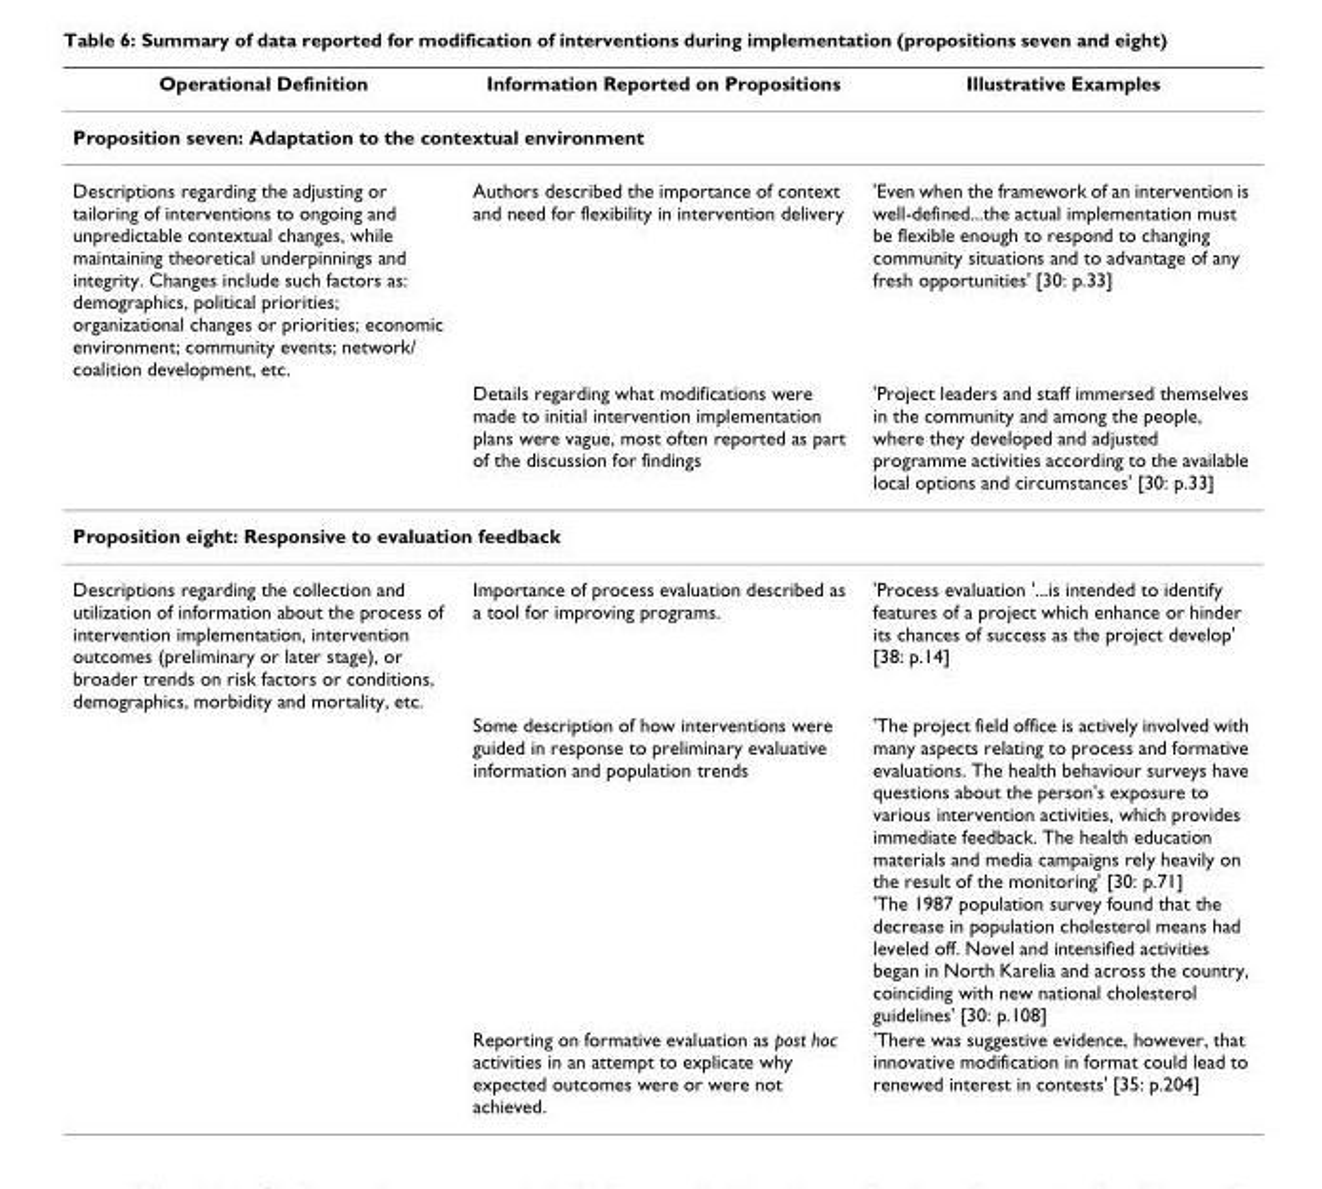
<table><thead><tr><td>Operational Definition</td><td>Information Reported on Propositions</td><td>Illustrative Examples</td></tr></thead><tbody><tr><td colspan="3">Proposition seven: Adaptation to the contextual environment</td></tr><tr><td rowspan="2">Descriptions regarding the adjusting or tailoring of interventions to ongoing and unpredictable contextual changes, while maintaining theoretical underpinnings and integrity. Changes include such factors as: demographics, political priorities; organizational changes or priorities; economic environment; community events; network/ coalition development, etc.</td><td>Authors described the importance of context and need for flexibility in intervention delivery</td><td>&#x27;Even when the framework of an intervention is well-defined...the actual implementation must be flexible enough to respond to changing community situations and to advantage of any fresh opportunities&#x27; [30: p.33]</td></tr><tr><td>Details regarding what modifications were made to initial intervention implementation plans were vague, most often reported as part of the discussion for findings</td><td>&#x27;Project leaders and staff immersed themselves in the community and among the people, where they developed and adjusted programme activities according to the available local options and circumstances&#x27; [30: p.33]</td></tr><tr><td colspan="3">Proposition eight: Responsive to evaluation feedback</td></tr><tr><td rowspan="3">Descriptions regarding the collection and utilization of information about the process of intervention implementation, intervention outcomes (preliminary or later stage), or broader trends on risk factors or conditions, demographics, morbidity and mortality, etc.</td><td>Importance of process evaluation described as a tool for improving programs.</td><td>&#x27;Process evaluation &#x27;...is intended to identify features of a project which enhance or hinder its chances of success as the project develop&#x27; [38: p.14]</td></tr><tr><td>Some description of how interventions were guided in response to preliminary evaluative information and population trends</td><td>&#x27;The project field office is actively involved with many aspects relating to process and formative evaluations. The health behaviour surveys have questions about the person&#x27;s exposure to various intervention activities, which provides immediate feedback. The health education materials and media campaigns rely heavily on the result of the monitoring&#x27; [30: p.71] &#x27;The 1987 population survey found that the decrease in population cholesterol means had leveled off. Novel and intensified activities began in North Karelia and across the country, coinciding with new national cholesterol guidelines&#x27; [30: p.108]</td></tr><tr><td>Reporting on formative evaluation as post hoc activities in an attempt to explicate why expected outcomes were or were not achieved.</td><td>&#x27;There was suggestive evidence, however, that innovative modification in format could lead to renewed interest in contests&#x27; [35: p.204]</td></tr></tbody></table>